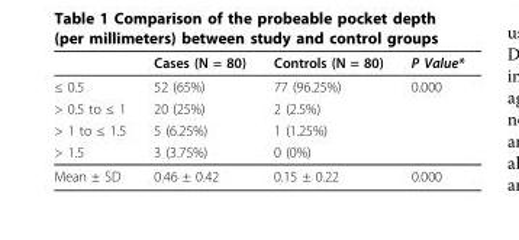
<table><thead><tr><td></td><td>Cases (N = 80)</td><td>Controls (N = 80)</td><td>P Value*</td></tr></thead><tbody><tr><td>≤ 0.5</td><td>52 (65%)</td><td>77 (96.25%)</td><td>0.000</td></tr><tr><td>&gt; 0.5 to ≤ 1</td><td>20 (25%)</td><td>2 (2.5%)</td><td></td></tr><tr><td>&gt; 1 to ≤ 1.5</td><td>5 (6.25%)</td><td>1 (1.25%)</td><td></td></tr><tr><td>&gt; 1.5</td><td>3 (3.75%)</td><td>0 (0%)</td><td></td></tr><tr><td>Mean ± SD</td><td>0.46 ± 0.42</td><td>0.15 ± 0.22</td><td>0.000</td></tr></tbody></table>